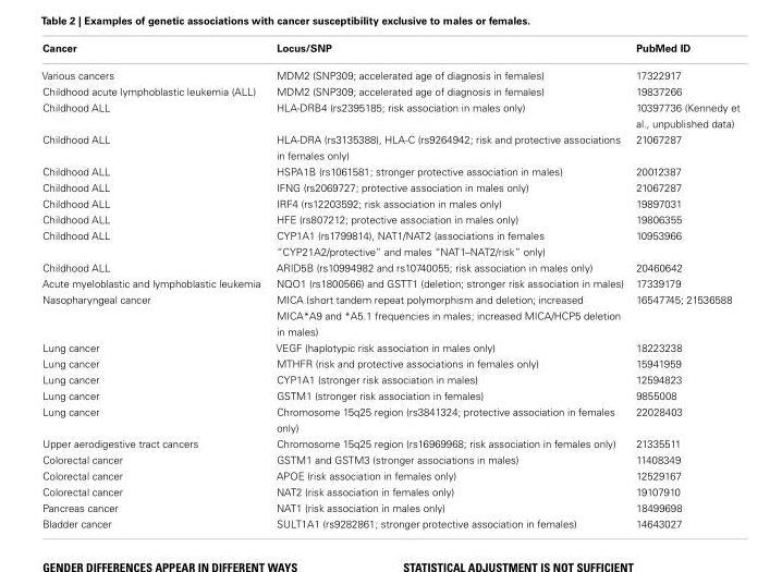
<table><thead><tr><td>Cancer</td><td>Locus/SNP</td><td>PubMed ID</td></tr></thead><tbody><tr><td>Various cancers</td><td>MDM2 (SNP309; accelerated age of diagnosis in females)</td><td>17322917</td></tr><tr><td>Childhood acute lymphoblastic leukemia (ALL)</td><td>MDM2 (SNP309; accelerated age of diagnosis in females)</td><td>19837266</td></tr><tr><td>Childhood ALL</td><td>HLA-DRB4 (rs2395185; risk association in males only)</td><td>10397736 (Kennedy et al., unpublished data)</td></tr><tr><td>Childhood ALL</td><td>HLA-DRA (rs3135388), HLA-C (rs9264942; risk and protective associations in females only)</td><td>21067287</td></tr><tr><td>Childhood ALL</td><td>HSPA1B (rs1061581; stronger protective association in males)</td><td>20012387</td></tr><tr><td>Childhood ALL</td><td>IFNG (rs2069727; protective association in males only)</td><td>21067287</td></tr><tr><td>Childhood ALL</td><td>IRF4 (rs12203592; risk association in males only)</td><td>19897031</td></tr><tr><td>Childhood ALL</td><td>HFE (rs807212; protective association in males only)</td><td>19806355</td></tr><tr><td>Childhood ALL</td><td>CYP1A1 (rs1799814), NAT1/NAT2 (associations in females “CYP21A2/protective” and males “NAT1–NAT2/risk” only)</td><td>10953966</td></tr><tr><td>Childhood ALL</td><td>ARID5B (rs10994982 and rs10740055; risk association in males only)</td><td>20460642</td></tr><tr><td>Acute myeloblastic and lymphoblastic leukemia</td><td>NQO1 (rs1800566) and GSTT1 (deletion; stronger risk association in males)</td><td>17339179</td></tr><tr><td>Nasopharyngeal cancer</td><td>MICA (short tandem repeat polymorphism and deletion; increased MICA*A9 and *A5.1 frequencies in males; increased MICA/HCP5 deletion in males)</td><td>16547745; 21536588</td></tr><tr><td>Lung cancer</td><td>VEGF (haplotypic risk association in males only)</td><td>18223238</td></tr><tr><td>Lung cancer</td><td>MTHFR (risk and protective associations in females only)</td><td>15941959</td></tr><tr><td>Lung cancer</td><td>CYP1A1 (stronger risk association in males)</td><td>12594823</td></tr><tr><td>Lung cancer</td><td>GSTM1 (stronger risk association in females)</td><td>9855008</td></tr><tr><td>Lung cancer</td><td>Chromosome 15q25 region (rs3841324; protective association in females only)</td><td>22028403</td></tr><tr><td>Upper aerodigestive tract cancers</td><td>Chromosome 15q25 region (rs16969968; risk association in females only)</td><td>21335511</td></tr><tr><td>Colorectal cancer</td><td>GSTM1 and GSTM3 (stronger associations in males)</td><td>11408349</td></tr><tr><td>Colorectal cancer</td><td>APOE (risk association in females only)</td><td>12529167</td></tr><tr><td>Colorectal cancer</td><td>NAT2 (risk association in females only)</td><td>19107910</td></tr><tr><td>Pancreas cancer</td><td>NAT1 (risk association in males only)</td><td>18499698</td></tr><tr><td>Bladder cancer</td><td>SULT1A1 (rs9282861; stronger protective association in females)</td><td>14643027</td></tr></tbody></table>